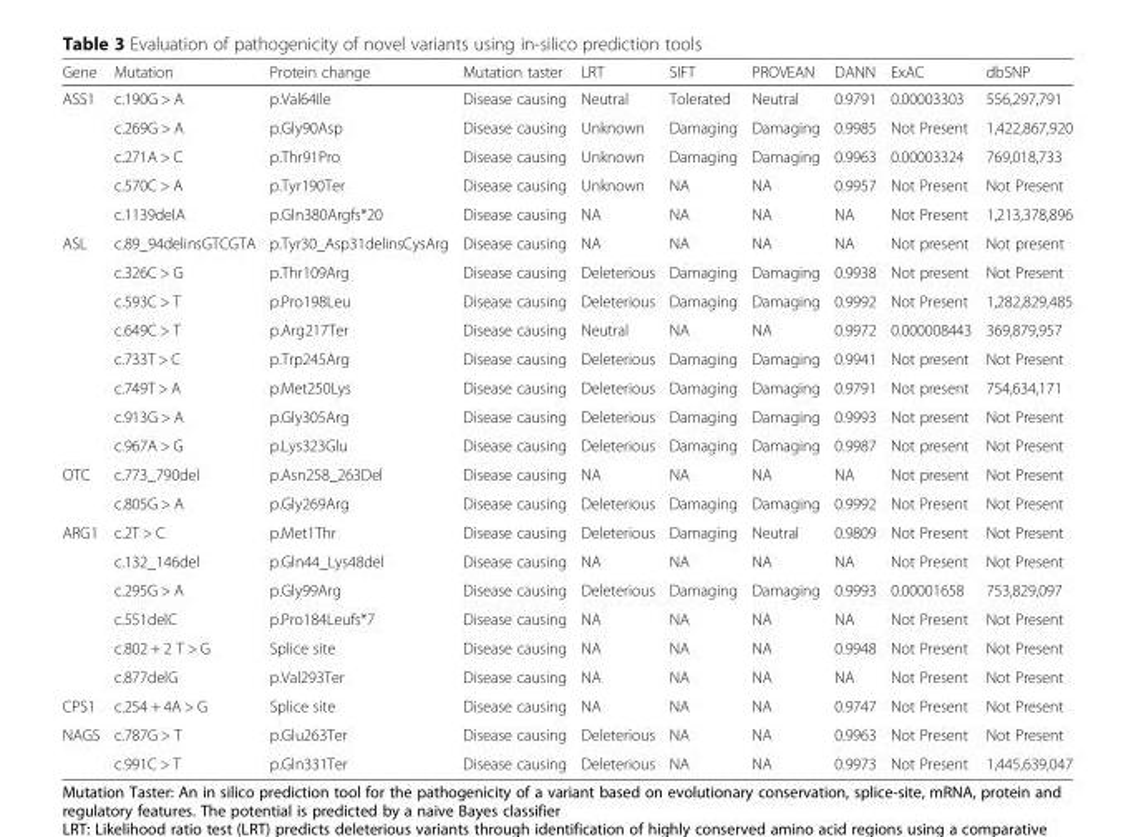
<table><thead><tr><td>Gene</td><td>Mutation</td><td>Protein change</td><td>Mutation taster</td><td>LRT</td><td>SIFT</td><td>PROVEAN</td><td>DANN</td><td>ExAC</td><td>dbSNP</td></tr></thead><tbody><tr><td rowspan="5">ASS1</td><td>c.190G &gt; A</td><td>p.Val64Ile</td><td>Disease causing</td><td>Neutral</td><td>Tolerated</td><td>Neutral</td><td>0.9791</td><td>0.00003303</td><td>556,297,791</td></tr><tr><td>c.269G &gt; A</td><td>p.Gly90Asp</td><td>Disease causing</td><td>Unknown</td><td>Damaging</td><td>Damaging</td><td>0.9985</td><td>Not Present</td><td>1,422,867,920</td></tr><tr><td>c.271A &gt; C</td><td>p.Thr91Pro</td><td>Disease causing</td><td>Unknown</td><td>Damaging</td><td>Damaging</td><td>0.9963</td><td>0.00003324</td><td>769,018,733</td></tr><tr><td>c.570C &gt; A</td><td>p.Tyr190Ter</td><td>Disease causing</td><td>Unknown</td><td>NA</td><td>NA</td><td>0.9957</td><td>Not Present</td><td>Not Present</td></tr><tr><td>c.1139delA</td><td>p.Gln380Argfs*20</td><td>Disease causing</td><td>NA</td><td>NA</td><td>NA</td><td>NA</td><td>Not Present</td><td>1,213,378,896</td></tr><tr><td rowspan="8">ASL</td><td>c.89_94delinsGTCGTA</td><td>p.Tyr30_Asp31delinsCysArg</td><td>Disease causing</td><td>NA</td><td>NA</td><td>NA</td><td>NA</td><td>Not present</td><td>Not present</td></tr><tr><td>c.326C &gt; G</td><td>p.Thr109Arg</td><td>Disease causing</td><td>Deleterious</td><td>Damaging</td><td>Damaging</td><td>0.9938</td><td>Not present</td><td>Not Present</td></tr><tr><td>c.593C &gt; T</td><td>p.Pro198Leu</td><td>Disease causing</td><td>Deleterious</td><td>Damaging</td><td>Damaging</td><td>0.9992</td><td>Not Present</td><td>1,282,829,485</td></tr><tr><td>c.649C &gt; T</td><td>p.Arg217Ter</td><td>Disease causing</td><td>Neutral</td><td>NA</td><td>NA</td><td>0.9972</td><td>0.000008443</td><td>369,879,957</td></tr><tr><td>c.733T &gt; C</td><td>p.Trp245Arg</td><td>Disease causing</td><td>Deleterious</td><td>Damaging</td><td>Damaging</td><td>0.9941</td><td>Not present</td><td>Not Present</td></tr><tr><td>c.749T &gt; A</td><td>p.Met250Lys</td><td>Disease causing</td><td>Deleterious</td><td>Damaging</td><td>Damaging</td><td>0.9791</td><td>Not present</td><td>754,634,171</td></tr><tr><td>c.913G &gt; A</td><td>p.Gly305Arg</td><td>Disease causing</td><td>Deleterious</td><td>Damaging</td><td>Damaging</td><td>0.9993</td><td>Not present</td><td>Not Present</td></tr><tr><td>c.967A &gt; G</td><td>p.Lys323Glu</td><td>Disease causing</td><td>Deleterious</td><td>Damaging</td><td>Damaging</td><td>0.9987</td><td>Not present</td><td>Not Present</td></tr><tr><td rowspan="2">OTC</td><td>c.773_790del</td><td>p.Asn258_263Del</td><td>Disease causing</td><td>NA</td><td>NA</td><td>NA</td><td>NA</td><td>Not present</td><td>Not Present</td></tr><tr><td>c.805G &gt; A</td><td>p.Gly269Arg</td><td>Disease causing</td><td>Deleterious</td><td>Damaging</td><td>Damaging</td><td>0.9992</td><td>Not Present</td><td>Not Present</td></tr><tr><td rowspan="6">ARG1</td><td>c.2T &gt; C</td><td>p.Met1Thr</td><td>Disease causing</td><td>Deleterious</td><td>Damaging</td><td>Neutral</td><td>0.9809</td><td>Not Present</td><td>Not Present</td></tr><tr><td>c.132_146del</td><td>p.Gln44_Lys48del</td><td>Disease causing</td><td>NA</td><td>NA</td><td>NA</td><td>NA</td><td>Not Present</td><td>Not Present</td></tr><tr><td>c.295G &gt; A</td><td>p.Gly99Arg</td><td>Disease causing</td><td>Deleterious</td><td>Damaging</td><td>Damaging</td><td>0.9993</td><td>0.00001658</td><td>753,829,097</td></tr><tr><td>c.551delC</td><td>p.Pro184Leufs*7</td><td>Disease causing</td><td>NA</td><td>NA</td><td>NA</td><td>NA</td><td>Not Present</td><td>Not Present</td></tr><tr><td>c.802 + 2 T &gt; G</td><td>Splice site</td><td>Disease causing</td><td>NA</td><td>NA</td><td>NA</td><td>0.9948</td><td>Not Present</td><td>Not Present</td></tr><tr><td>c.877delG</td><td>p.Val293Ter</td><td>Disease causing</td><td>NA</td><td>NA</td><td>NA</td><td>NA</td><td>Not Present</td><td>Not Present</td></tr><tr><td>CPS1</td><td>c.254 + 4A &gt; G</td><td>Splice site</td><td>Disease causing</td><td>NA</td><td>NA</td><td>NA</td><td>0.9747</td><td>Not Present</td><td>Not Present</td></tr><tr><td rowspan="2">NAGS</td><td>c.787G &gt; T</td><td>p.Glu263Ter</td><td>Disease causing</td><td>Deleterious</td><td>NA</td><td>NA</td><td>0.9963</td><td>Not Present</td><td>Not Present</td></tr><tr><td>c.991C &gt; T</td><td>p.Gln331Ter</td><td>Disease causing</td><td>Deleterious</td><td>NA</td><td>NA</td><td>0.9973</td><td>Not Present</td><td>1,445,639,047</td></tr></tbody></table>